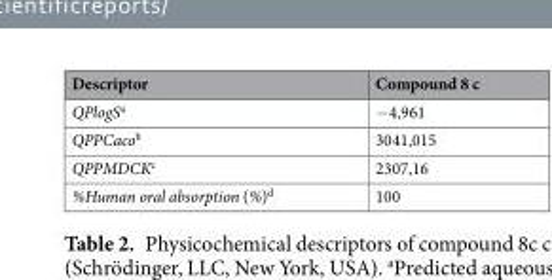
<table><thead><tr><td>Descriptor</td><td>Compound 8 c</td></tr></thead><tbody><tr><td>QPlogS<sup>a</sup></td><td>−4,961</td></tr><tr><td>QPPCaco<sup>b</sup></td><td>3041,015</td></tr><tr><td>QPPMDCK<sup>c</sup></td><td>2307,16</td></tr><tr><td>%Human oral absorption (%)<sup>d</sup></td><td>100</td></tr></tbody></table>